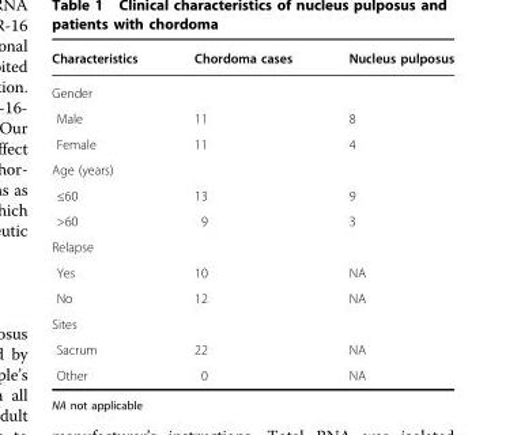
<table><thead><tr><td>Characteristics</td><td>Chordoma cases</td><td>Nucleus pulposus</td></tr></thead><tbody><tr><td colspan="3">Gender</td></tr><tr><td>Male</td><td>11</td><td>8</td></tr><tr><td>Female</td><td>11</td><td>4</td></tr><tr><td colspan="3">Age (years)</td></tr><tr><td>≤60</td><td>13</td><td>9</td></tr><tr><td>&gt;60</td><td>9</td><td>3</td></tr><tr><td colspan="3">Relapse</td></tr><tr><td>Yes</td><td>10</td><td>NA</td></tr><tr><td>No</td><td>12</td><td>NA</td></tr><tr><td colspan="3">Sites</td></tr><tr><td>Sacrum</td><td>22</td><td>NA</td></tr><tr><td>Other</td><td>0</td><td>NA</td></tr></tbody></table>